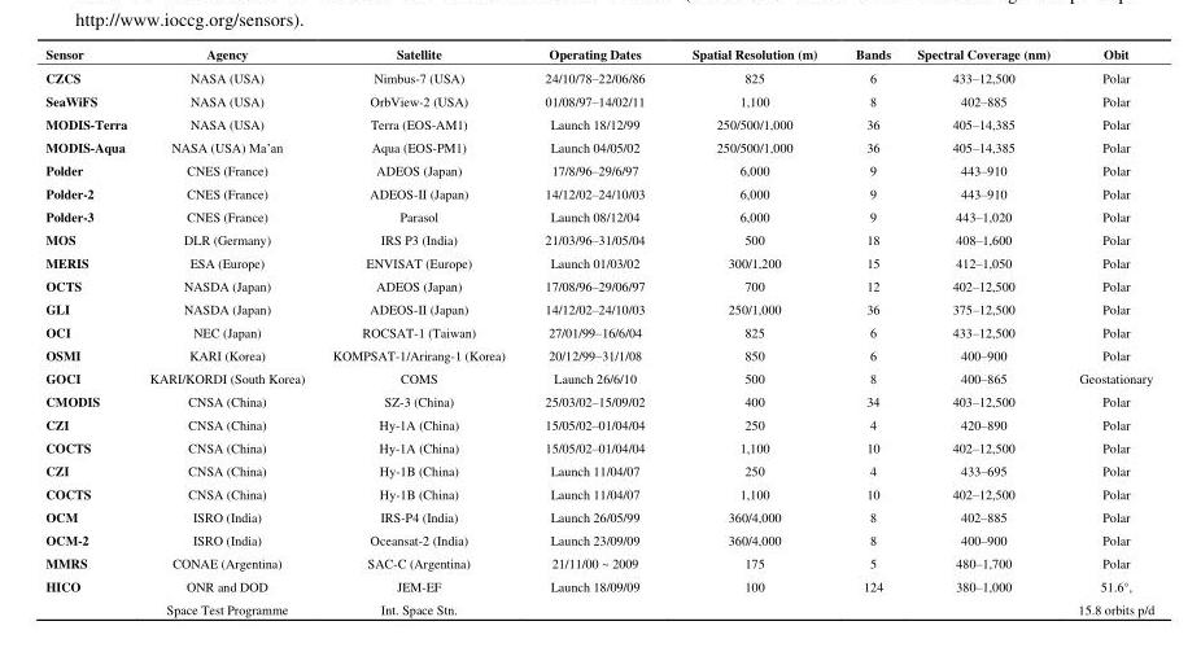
<table><thead><tr><td>Sensor</td><td>Agency</td><td>Satellite</td><td>Operating Dates</td><td>Spatial Resolution (m)</td><td>Bands</td><td>Spectral Coverage (nm)</td><td>Obit</td></tr></thead><tbody><tr><td>CZCS</td><td>NASA (USA)</td><td>Nimbus-7 (USA)</td><td>24/10/78–22/06/86</td><td>825</td><td>6</td><td>433–12,500</td><td>Polar</td></tr><tr><td>SeaWiFS</td><td>NASA (USA)</td><td>OrbView-2 (USA)</td><td>01/08/97–14/02/11</td><td>1,100</td><td>8</td><td>402–885</td><td>Polar</td></tr><tr><td>MODIS-Terra</td><td>NASA (USA)</td><td>Terra (EOS-AM1)</td><td>Launch 18/12/99</td><td>250/500/1,000</td><td>36</td><td>405–14,385</td><td>Polar</td></tr><tr><td>MODIS-Aqua</td><td>NASA (USA) Ma’an</td><td>Aqua (EOS-PM1)</td><td>Launch 04/05/02</td><td>250/500/1,000</td><td>36</td><td>405–14,385</td><td>Polar</td></tr><tr><td>Polder</td><td>CNES (France)</td><td>ADEOS (Japan)</td><td>17/8/96–29/6/97</td><td>6,000</td><td>9</td><td>443–910</td><td>Polar</td></tr><tr><td>Polder-2</td><td>CNES (France)</td><td>ADEOS-II (Japan)</td><td>14/12/02–24/10/03</td><td>6,000</td><td>9</td><td>443–910</td><td>Polar</td></tr><tr><td>Polder-3</td><td>CNES (France)</td><td>Parasol</td><td>Launch 08/12/04</td><td>6,000</td><td>9</td><td>443–1,020</td><td>Polar</td></tr><tr><td>MOS</td><td>DLR (Germany)</td><td>IRS P3 (India)</td><td>21/03/96–31/05/04</td><td>500</td><td>18</td><td>408–1,600</td><td>Polar</td></tr><tr><td>MERIS</td><td>ESA (Europe)</td><td>ENVISAT (Europe)</td><td>Launch 01/03/02</td><td>300/1,200</td><td>15</td><td>412–1,050</td><td>Polar</td></tr><tr><td>OCTS</td><td>NASDA (Japan)</td><td>ADEOS (Japan)</td><td>17/08/96–29/06/97</td><td>700</td><td>12</td><td>402–12,500</td><td>Polar</td></tr><tr><td>GLI</td><td>NASDA (Japan)</td><td>ADEOS-II (Japan)</td><td>14/12/02–24/10/03</td><td>250/1,000</td><td>36</td><td>375–12,500</td><td>Polar</td></tr><tr><td>OCI</td><td>NEC (Japan)</td><td>ROCSAT-1 (Taiwan)</td><td>27/01/99–16/6/04</td><td>825</td><td>6</td><td>433–12,500</td><td>Polar</td></tr><tr><td>OSMI</td><td>KARI (Korea)</td><td>KOMPSAT-1/Arirang-1 (Korea)</td><td>20/12/99–31/1/08</td><td>850</td><td>6</td><td>400–900</td><td>Polar</td></tr><tr><td>GOCI</td><td>KARI/KORDI (South Korea)</td><td>COMS</td><td>Launch 26/6/10</td><td>500</td><td>8</td><td>400–865</td><td>Geostationary</td></tr><tr><td>CMODIS</td><td>CNSA (China)</td><td>SZ-3 (China)</td><td>25/03/02–15/09/02</td><td>400</td><td>34</td><td>403–12,500</td><td>Polar</td></tr><tr><td>CZI</td><td>CNSA (China)</td><td>Hy-1A (China)</td><td>15/05/02–01/04/04</td><td>250</td><td>4</td><td>420–890</td><td>Polar</td></tr><tr><td>COCTS</td><td>CNSA (China)</td><td>Hy-1A (China)</td><td>15/05/02–01/04/04</td><td>1,100</td><td>10</td><td>402–12,500</td><td>Polar</td></tr><tr><td>CZI</td><td>CNSA (China)</td><td>Hy-1B (China)</td><td>Launch 11/04/07</td><td>250</td><td>4</td><td>433–695</td><td>Polar</td></tr><tr><td>COCTS</td><td>CNSA (China)</td><td>Hy-1B (China)</td><td>Launch 11/04/07</td><td>1,100</td><td>10</td><td>402–12,500</td><td>Polar</td></tr><tr><td>OCM</td><td>ISRO (India)</td><td>IRS-P4 (India)</td><td>Launch 26/05/99</td><td>360/4,000</td><td>8</td><td>402–885</td><td>Polar</td></tr><tr><td>OCM-2</td><td>ISRO (India)</td><td>Oceansat-2 (India)</td><td>Launch 23/09/09</td><td>360/4,000</td><td>8</td><td>400–900</td><td>Polar</td></tr><tr><td>MMRS</td><td>CONAE (Argentina)</td><td>SAC-C (Argentina)</td><td>21/11/00 ~ 2009</td><td>175</td><td>5</td><td>480–1,700</td><td>Polar</td></tr><tr><td>HICO</td><td>ONR and DOD Space Test Programme</td><td>JEM-EF Int. Space Stn.</td><td>Launch 18/09/09</td><td>100</td><td>124</td><td>380–1,000</td><td>51.6°, 15.8 orbits p/d</td></tr></tbody></table>